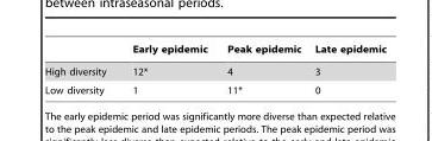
<table><thead><tr><td></td><td>Early epidemic</td><td>Peak epidemic</td><td>Late epidemic</td></tr></thead><tbody><tr><td>High diversity</td><td>12*</td><td>4</td><td>3</td></tr><tr><td>Low diversity</td><td>1</td><td>11*</td><td>0</td></tr></tbody></table>